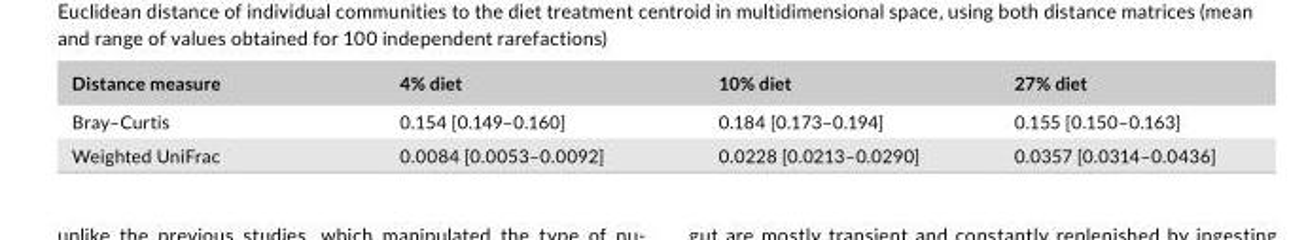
<table><thead><tr><td>Distance measure</td><td>4% diet</td><td>10% diet</td><td>27% diet</td></tr></thead><tbody><tr><td>Bray–Curtis</td><td>0.154 [0.149–0.160]</td><td>0.184 [0.173–0.194]</td><td>0.155 [0.150–0.163]</td></tr><tr><td>Weighted UniFrac</td><td>0.0084 [0.0053–0.0092]</td><td>0.0228 [0.0213–0.0290]</td><td>0.0357 [0.0314–0.0436]</td></tr></tbody></table>